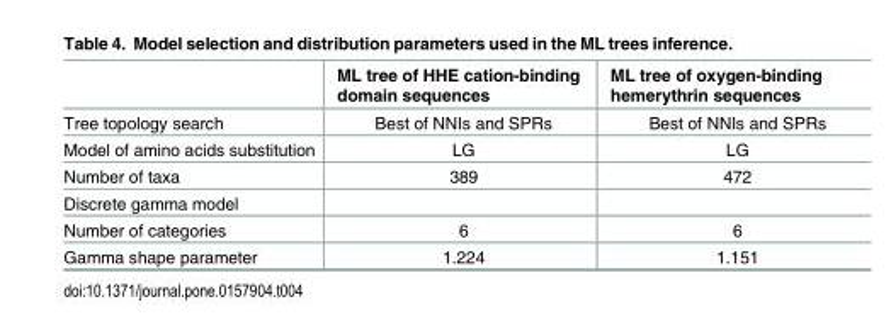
<table><thead><tr><td></td><td>ML tree of HHE cation-binding domain sequences</td><td>ML tree of oxygen-binding hemerythrin sequences</td></tr></thead><tbody><tr><td>Tree topology search</td><td>Best of NNIs and SPRs</td><td>Best of NNIs and SPRs</td></tr><tr><td>Model of amino acids substitution</td><td>LG</td><td>LG</td></tr><tr><td>Number of taxa</td><td>389</td><td>472</td></tr><tr><td colspan="3">Discrete gamma model</td></tr><tr><td>Number of categories</td><td>6</td><td>6</td></tr><tr><td>Gamma shape parameter</td><td>1.224</td><td>1.151</td></tr></tbody></table>